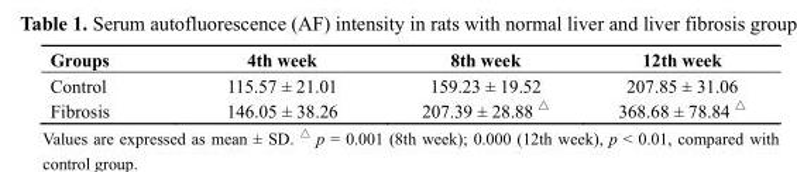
<table><thead><tr><td>Groups</td><td>4th week</td><td>8th week</td><td>12th week</td></tr></thead><tbody><tr><td>Control</td><td>115.57 ± 21.01</td><td>159.23 ± 19.52</td><td>207.85 ± 31.06</td></tr><tr><td>Fibrosis</td><td>146.05 ± 38.26</td><td>207.39 ± 28.88 △</td><td>368.68 ± 78.84 △</td></tr></tbody></table>